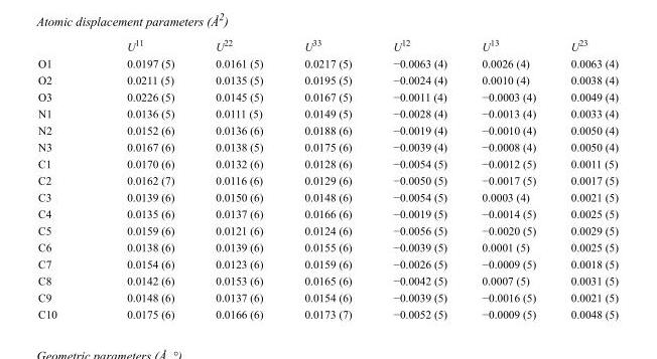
<table><thead><tr><td></td><td>U<sup>11</sup></td><td>U<sup>22</sup></td><td>U<sup>33</sup></td><td>U<sup>12</sup></td><td>U<sup>13</sup></td><td>U<sup>23</sup></td></tr></thead><tbody><tr><td>O1</td><td>0.0197 (5)</td><td>0.0161 (5)</td><td>0.0217 (5)</td><td>−0.0063 (4)</td><td>0.0026 (4)</td><td>0.0063 (4)</td></tr><tr><td>O2</td><td>0.0211 (5)</td><td>0.0135 (5)</td><td>0.0195 (5)</td><td>−0.0024 (4)</td><td>0.0010 (4)</td><td>0.0038 (4)</td></tr><tr><td>O3</td><td>0.0226 (5)</td><td>0.0145 (5)</td><td>0.0167 (5)</td><td>−0.0011 (4)</td><td>−0.0003 (4)</td><td>0.0049 (4)</td></tr><tr><td>N1</td><td>0.0136 (5)</td><td>0.0111 (5)</td><td>0.0149 (5)</td><td>−0.0028 (4)</td><td>−0.0013 (4)</td><td>0.0033 (4)</td></tr><tr><td>N2</td><td>0.0152 (6)</td><td>0.0136 (6)</td><td>0.0188 (6)</td><td>−0.0019 (4)</td><td>−0.0010 (4)</td><td>0.0050 (4)</td></tr><tr><td>N3</td><td>0.0167 (6)</td><td>0.0138 (5)</td><td>0.0175 (6)</td><td>−0.0039 (4)</td><td>−0.0008 (4)</td><td>0.0050 (4)</td></tr><tr><td>C1</td><td>0.0170 (6)</td><td>0.0132 (6)</td><td>0.0128 (6)</td><td>−0.0054 (5)</td><td>−0.0012 (5)</td><td>0.0011 (5)</td></tr><tr><td>C2</td><td>0.0162 (7)</td><td>0.0116 (6)</td><td>0.0129 (6)</td><td>−0.0050 (5)</td><td>−0.0017 (5)</td><td>0.0017 (5)</td></tr><tr><td>C3</td><td>0.0139 (6)</td><td>0.0150 (6)</td><td>0.0148 (6)</td><td>−0.0054 (5)</td><td>0.0003 (4)</td><td>0.0021 (5)</td></tr><tr><td>C4</td><td>0.0135 (6)</td><td>0.0137 (6)</td><td>0.0166 (6)</td><td>−0.0019 (5)</td><td>−0.0014 (5)</td><td>0.0025 (5)</td></tr><tr><td>C5</td><td>0.0159 (6)</td><td>0.0121 (6)</td><td>0.0124 (6)</td><td>−0.0056 (5)</td><td>−0.0020 (5)</td><td>0.0029 (5)</td></tr><tr><td>C6</td><td>0.0138 (6)</td><td>0.0139 (6)</td><td>0.0155 (6)</td><td>−0.0039 (5)</td><td>0.0001 (5)</td><td>0.0025 (5)</td></tr><tr><td>C7</td><td>0.0154 (6)</td><td>0.0123 (6)</td><td>0.0159 (6)</td><td>−0.0026 (5)</td><td>−0.0009 (5)</td><td>0.0018 (5)</td></tr><tr><td>C8</td><td>0.0142 (6)</td><td>0.0153 (6)</td><td>0.0165 (6)</td><td>−0.0042 (5)</td><td>0.0007 (5)</td><td>0.0031 (5)</td></tr><tr><td>C9</td><td>0.0148 (6)</td><td>0.0137 (6)</td><td>0.0154 (6)</td><td>−0.0039 (5)</td><td>−0.0016 (5)</td><td>0.0021 (5)</td></tr><tr><td>C10</td><td>0.0175 (6)</td><td>0.0166 (6)</td><td>0.0173 (7)</td><td>−0.0052 (5)</td><td>−0.0009 (5)</td><td>0.0048 (5)</td></tr></tbody></table>